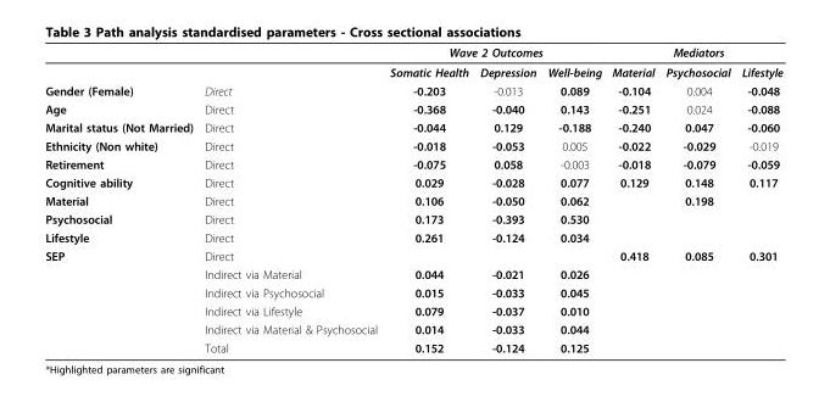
<table><thead><tr><td rowspan="2"></td><td rowspan="2"></td><td colspan="3">Wave 2 Outcomes</td><td colspan="3">Mediators</td></tr><tr><td>Somatic Health</td><td>Depression</td><td>Well-being</td><td>Material</td><td>Psychosocial</td><td>Lifestyle</td></tr></thead><tbody><tr><td>Gender (Female)</td><td>Direct</td><td>-0.203</td><td>-0.013</td><td>0.089</td><td>-0.104</td><td>0.004</td><td>-0.048</td></tr><tr><td>Age</td><td>Direct</td><td>-0.368</td><td>-0.040</td><td>0.143</td><td>-0.251</td><td>0.024</td><td>-0.088</td></tr><tr><td>Marital status (Not Married)</td><td>Direct</td><td>-0.044</td><td>0.129</td><td>-0.188</td><td>-0.240</td><td>0.047</td><td>-0.060</td></tr><tr><td>Ethnicity (Non white)</td><td>Direct</td><td>-0.018</td><td>-0.053</td><td>0.005</td><td>-0.022</td><td>-0.029</td><td>-0.019</td></tr><tr><td>Retirement</td><td>Direct</td><td>-0.075</td><td>0.058</td><td>-0.003</td><td>-0.018</td><td>-0.079</td><td>-0.059</td></tr><tr><td>Cognitive ability</td><td>Direct</td><td>0.029</td><td>-0.028</td><td>0.077</td><td>0.129</td><td>0.148</td><td>0.117</td></tr><tr><td>Material</td><td>Direct</td><td>0.106</td><td>-0.050</td><td>0.062</td><td></td><td>0.198</td><td></td></tr><tr><td>Psychosocial</td><td>Direct</td><td>0.173</td><td>-0.393</td><td>0.530</td><td></td><td></td><td></td></tr><tr><td>Lifestyle</td><td>Direct</td><td>0.261</td><td>-0.124</td><td>0.034</td><td></td><td></td><td></td></tr><tr><td rowspan="6">SEP</td><td>Direct</td><td></td><td></td><td></td><td>0.418</td><td>0.085</td><td>0.301</td></tr><tr><td>Indirect via Material</td><td>0.044</td><td>-0.021</td><td>0.026</td><td></td><td></td><td></td></tr><tr><td>Indirect via Psychosocial</td><td>0.015</td><td>-0.033</td><td>0.045</td><td></td><td></td><td></td></tr><tr><td>Indirect via Lifestyle</td><td>0.079</td><td>-0.037</td><td>0.010</td><td></td><td></td><td></td></tr><tr><td>Indirect via Material &amp; Psychosocial</td><td>0.014</td><td>-0.033</td><td>0.044</td><td></td><td></td><td></td></tr><tr><td>Total</td><td>0.152</td><td>-0.124</td><td>0.125</td><td></td><td></td><td></td></tr></tbody></table>